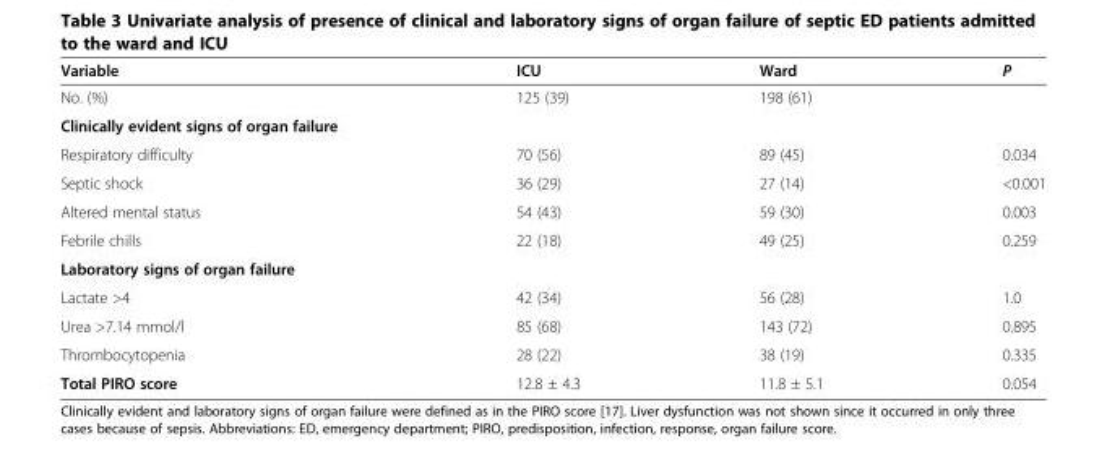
<table><thead><tr><td>Variable</td><td>ICU</td><td>Ward</td><td>P</td></tr></thead><tbody><tr><td>No. (%)</td><td>125 (39)</td><td>198 (61)</td><td></td></tr><tr><td colspan="4">Clinically evident signs of organ failure</td></tr><tr><td>Respiratory difficulty</td><td>70 (56)</td><td>89 (45)</td><td>0.034</td></tr><tr><td>Septic shock</td><td>36 (29)</td><td>27 (14)</td><td>&lt;0.001</td></tr><tr><td>Altered mental status</td><td>54 (43)</td><td>59 (30)</td><td>0.003</td></tr><tr><td>Febrile chills</td><td>22 (18)</td><td>49 (25)</td><td>0.259</td></tr><tr><td colspan="4">Laboratory signs of organ failure</td></tr><tr><td>Lactate &gt;4</td><td>42 (34)</td><td>56 (28)</td><td>1.0</td></tr><tr><td>Urea &gt;7.14 mmol/l</td><td>85 (68)</td><td>143 (72)</td><td>0.895</td></tr><tr><td>Thrombocytopenia</td><td>28 (22)</td><td>38 (19)</td><td>0.335</td></tr><tr><td>Total PIRO score</td><td>12.8 ± 4.3</td><td>11.8 ± 5.1</td><td>0.054</td></tr></tbody></table>